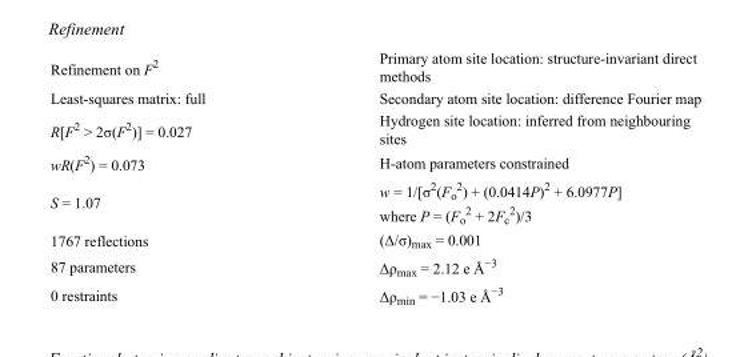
<table><tbody><tr><td>Refinement on F<sup>2</sup></td><td>Primary atom site location: structure-invariant direct methods</td></tr><tr><td>Least-squares matrix: full</td><td>Secondary atom site location: difference Fourier map</td></tr><tr><td>R[F<sup>2</sup> &gt; 2σ(F<sup>2</sup>)] = 0.027</td><td>Hydrogen site location: inferred from neighbouring sites</td></tr><tr><td>wR(F<sup>2</sup>) = 0.073</td><td>H-atom parameters constrained</td></tr><tr><td>S = 1.07</td><td>w = 1/[σ<sup>2</sup>(F<sub>o</sub> <sup>2</sup>) + (0.0414P)<sup>2</sup> + 6.0977P] where P = (F<sub>o</sub> <sup>2</sup> + 2F<sub>c</sub> <sup>2</sup>)/3</td></tr><tr><td>1767 reflections</td><td>(Δ/σ)<sub>max</sub> = 0.001</td></tr><tr><td>87 parameters</td><td>Δρ<sub>max</sub> = 2.12 e Å<sup>−3</sup></td></tr><tr><td>0 restraints</td><td>Δρ<sub>min</sub> = −1.03 e Å<sup>−3</sup></td></tr></tbody></table>